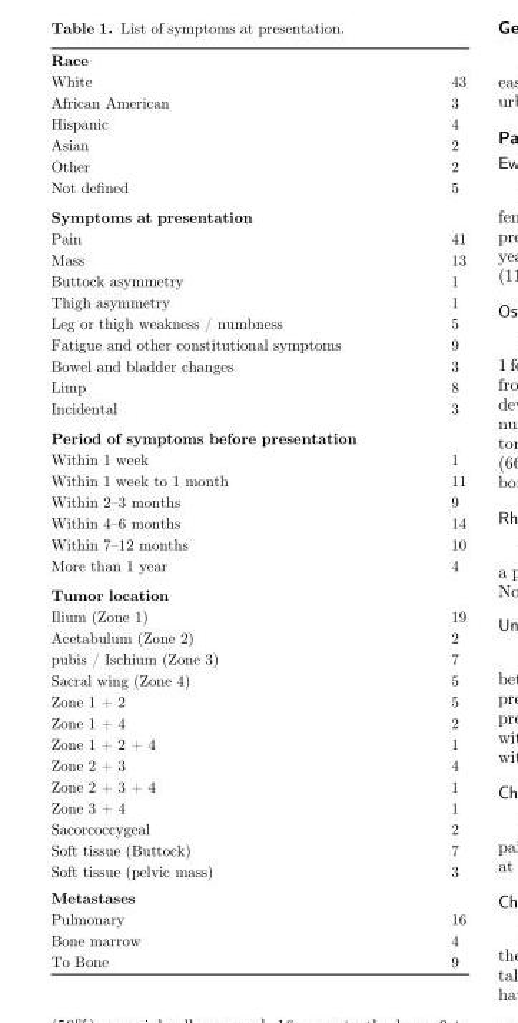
<table><tbody><tr><td colspan="2">Race</td></tr><tr><td>White</td><td>43</td></tr><tr><td>African American</td><td>3</td></tr><tr><td>Hispanic</td><td>4</td></tr><tr><td>Asian</td><td>2</td></tr><tr><td>Other</td><td>2</td></tr><tr><td>Not defined</td><td>5</td></tr><tr><td colspan="2">Symptoms at presentation</td></tr><tr><td>Pain</td><td>41</td></tr><tr><td>Mass</td><td>13</td></tr><tr><td>Buttock asymmetry</td><td>1</td></tr><tr><td>Thigh asymmetry</td><td>1</td></tr><tr><td>Leg or thigh weakness / numbness</td><td>5</td></tr><tr><td>Fatigue and other constitutional symptoms</td><td>9</td></tr><tr><td>Bowel and bladder changes</td><td>3</td></tr><tr><td>Limp</td><td>8</td></tr><tr><td>Incidental</td><td>3</td></tr><tr><td colspan="2">Period of symptoms before presentation</td></tr><tr><td>Within 1 week</td><td>1</td></tr><tr><td>Within 1 week to 1 month</td><td>11</td></tr><tr><td>Within 2–3 months</td><td>9</td></tr><tr><td>Within 4–6 months</td><td>14</td></tr><tr><td>Within 7–12 months</td><td>10</td></tr><tr><td>More than 1 year</td><td>4</td></tr><tr><td colspan="2">Tumor location</td></tr><tr><td>Ilium (Zone 1)</td><td>19</td></tr><tr><td>Acetabulum (Zone 2)</td><td>2</td></tr><tr><td>pubis / Ischium (Zone 3)</td><td>7</td></tr><tr><td>Sacral wing (Zone 4)</td><td>5</td></tr><tr><td>Zone 1 + 2</td><td>5</td></tr><tr><td>Zone 1 + 4</td><td>2</td></tr><tr><td>Zone 1 + 2 + 4</td><td>1</td></tr><tr><td>Zone 2 + 3</td><td>4</td></tr><tr><td>Zone 2 + 3 + 4</td><td>1</td></tr><tr><td>Zone 3 + 4</td><td>1</td></tr><tr><td>Sacorcoccygeal</td><td>2</td></tr><tr><td>Soft tissue (Buttock)</td><td>7</td></tr><tr><td>Soft tissue (pelvic mass)</td><td>3</td></tr><tr><td colspan="2">Metastases</td></tr><tr><td>Pulmonary</td><td>16</td></tr><tr><td>Bone marrow</td><td>4</td></tr><tr><td>To Bone</td><td>9</td></tr></tbody></table>